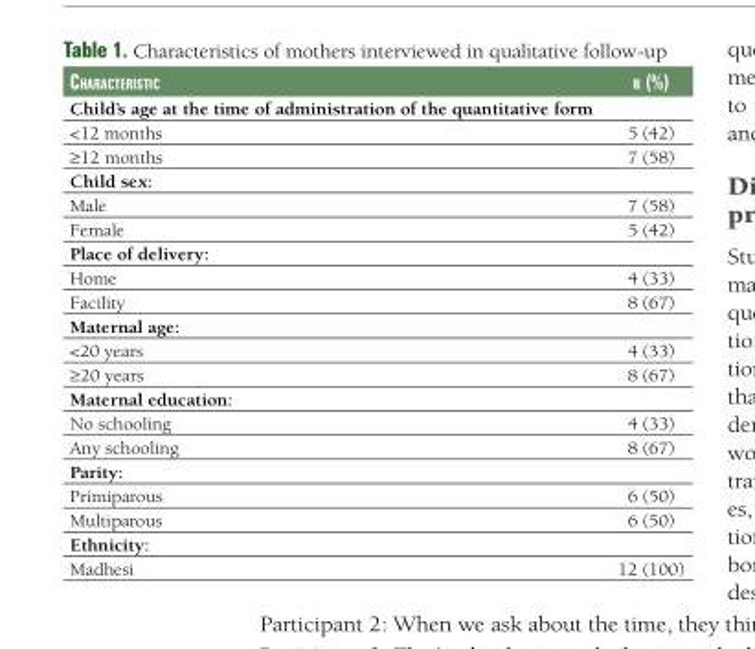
<table><thead><tr><td>CharaCteristiC</td><td>n (%)</td></tr></thead><tbody><tr><td colspan="2">Child’s age at the time of administration of the quantitative form</td></tr><tr><td>&lt;12 months</td><td>5 (42)</td></tr><tr><td>≥12 months</td><td>7 (58)</td></tr><tr><td colspan="2">Child sex:</td></tr><tr><td>Male</td><td>7 (58)</td></tr><tr><td>Female</td><td>5 (42)</td></tr><tr><td colspan="2">Place of delivery:</td></tr><tr><td>Home</td><td>4 (33)</td></tr><tr><td>Facility</td><td>8 (67)</td></tr><tr><td colspan="2">Maternal age:</td></tr><tr><td>&lt;20 years</td><td>4 (33)</td></tr><tr><td>≥20 years</td><td>8 (67)</td></tr><tr><td colspan="2">Maternal education:</td></tr><tr><td>No schooling</td><td>4 (33)</td></tr><tr><td>Any schooling</td><td>8 (67)</td></tr><tr><td colspan="2">Parity:</td></tr><tr><td>Primiparous</td><td>6 (50)</td></tr><tr><td>Multiparous</td><td>6 (50)</td></tr><tr><td colspan="2">Ethnicity:</td></tr><tr><td>Madhesi</td><td>12 (100)</td></tr></tbody></table>